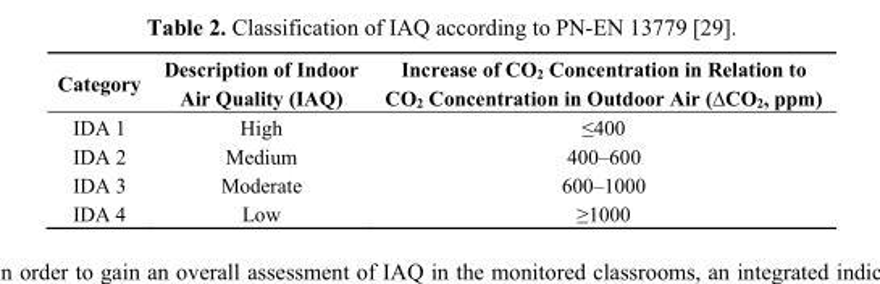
<table><thead><tr><td>Category</td><td>Description of Indoor Air Quality (IAQ)</td><td>Increase of CO<sub>2</sub> Concentration in Relation to CO<sub>2</sub> Concentration in Outdoor Air (∆CO<sub>2</sub>, ppm)</td></tr></thead><tbody><tr><td>IDA 1</td><td>High</td><td>≤400</td></tr><tr><td>IDA 2</td><td>Medium</td><td>400–600</td></tr><tr><td>IDA 3</td><td>Moderate</td><td>600–1000</td></tr><tr><td>IDA 4</td><td>Low</td><td>≥1000</td></tr></tbody></table>